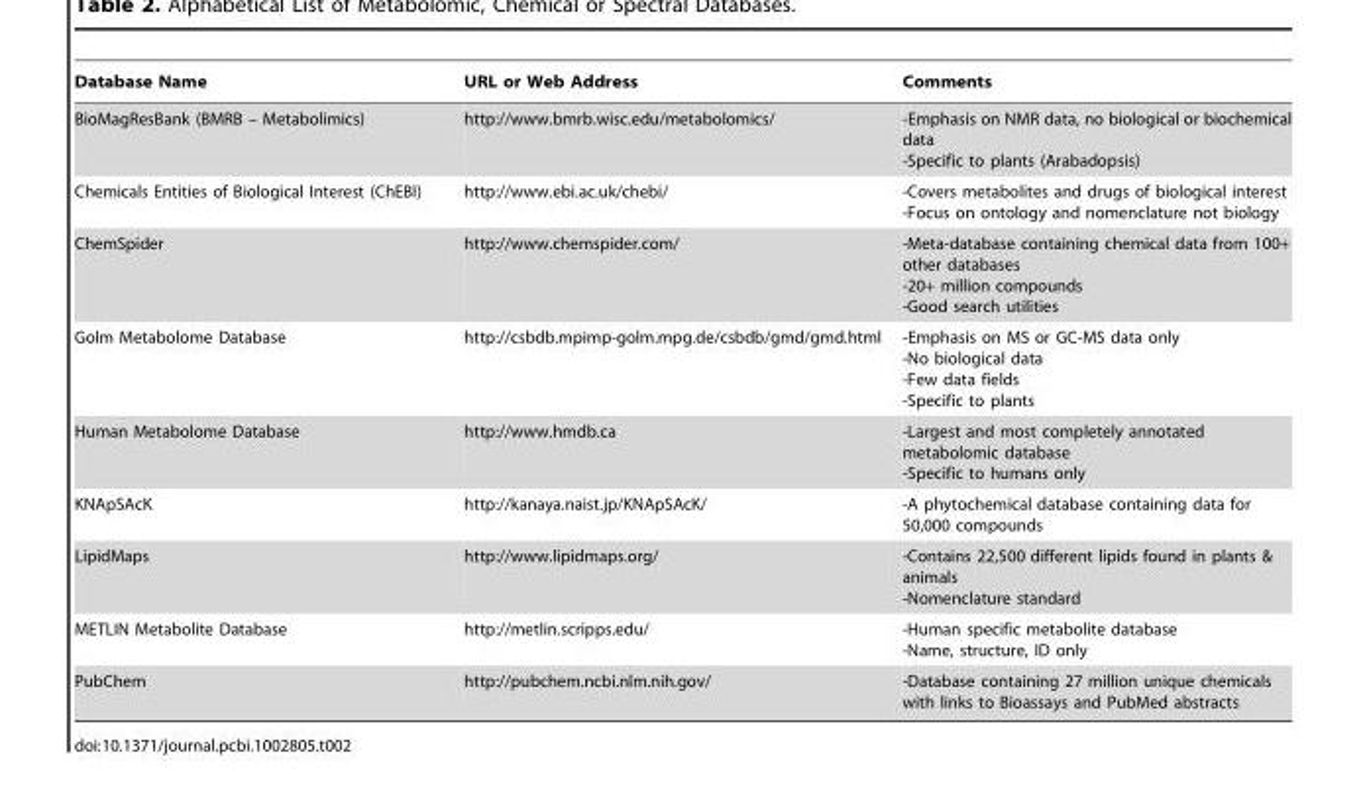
<table><thead><tr><td>Database Name</td><td>URL or Web Address</td><td>Comments</td></tr></thead><tbody><tr><td>BioMagResBank (BMRB – Metabolimics)</td><td>http://www.bmrb.wisc.edu/metabolomics/</td><td>-Emphasis on NMR data, no biological or biochemical data -Specific to plants (Arabadopsis)</td></tr><tr><td>Chemicals Entities of Biological Interest (ChEBI)</td><td>http://www.ebi.ac.uk/chebi/</td><td>-Covers metabolites and drugs of biological interest -Focus on ontology and nomenclature not biology</td></tr><tr><td>ChemSpider</td><td>http://www.chemspider.com/</td><td>-Meta-database containing chemical data from 100+ other databases -20+ million compounds -Good search utilities</td></tr><tr><td>Golm Metabolome Database</td><td>http://csbdb.mpimp-golm.mpg.de/csbdb/gmd/gmd.html</td><td>-Emphasis on MS or GC-MS data only -No biological data -Few data fields -Specific to plants</td></tr><tr><td>Human Metabolome Database</td><td>http://www.hmdb.ca</td><td>-Largest and most completely annotated metabolomic database -Specific to humans only</td></tr><tr><td>KNApSAcK</td><td>http://kanaya.naist.jp/KNApSAcK/</td><td>-A phytochemical database containing data for 50,000 compounds</td></tr><tr><td>LipidMaps</td><td>http://www.lipidmaps.org/</td><td>-Contains 22,500 different lipids found in plants &amp; animals -Nomenclature standard</td></tr><tr><td>METLIN Metabolite Database</td><td>http://metlin.scripps.edu/</td><td>-Human specific metabolite database -Name, structure, ID only</td></tr><tr><td>PubChem</td><td>http://pubchem.ncbi.nlm.nih.gov/</td><td>-Database containing 27 million unique chemicals with links to Bioassays and PubMed abstracts</td></tr></tbody></table>